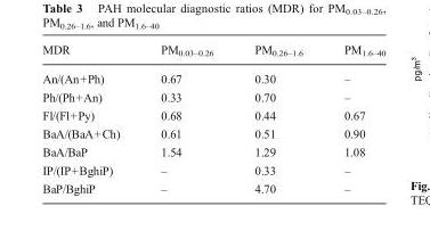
<table><thead><tr><td>MDR</td><td>PM<sub>0.03–0.26</sub></td><td>PM<sub>0.26–1.6</sub></td><td>PM<sub>1.6–40</sub></td></tr></thead><tbody><tr><td>An/(An+Ph)</td><td>0.67</td><td>0.30</td><td>–</td></tr><tr><td>Ph/(Ph+An)</td><td>0.33</td><td>0.70</td><td>–</td></tr><tr><td>Fl/(Fl+Py)</td><td>0.68</td><td>0.44</td><td>0.67</td></tr><tr><td>BaA/(BaA+Ch)</td><td>0.61</td><td>0.51</td><td>0.90</td></tr><tr><td>BaA/BaP</td><td>1.54</td><td>1.29</td><td>1.08</td></tr><tr><td>IP/(IP+BghiP)</td><td>–</td><td>0.33</td><td>–</td></tr><tr><td>BaP/BghiP</td><td>–</td><td>4.70</td><td>–</td></tr></tbody></table>